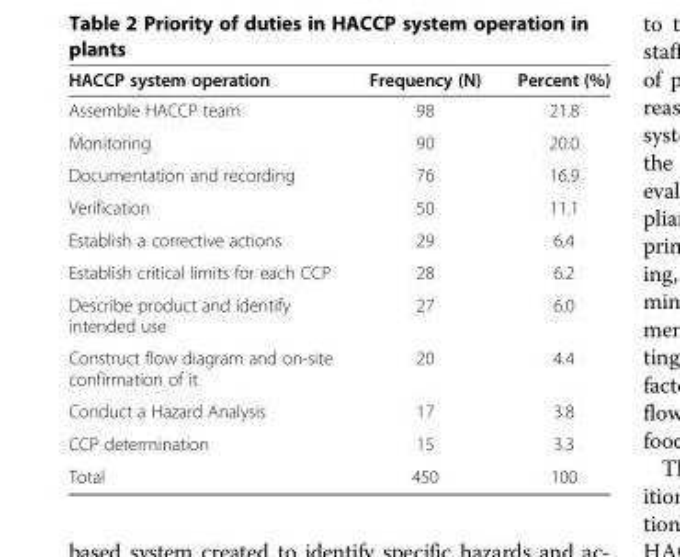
<table><thead><tr><td>HACCP system operation</td><td>Frequency (N)</td><td>Percent (%)</td></tr></thead><tbody><tr><td>Assemble HACCP team</td><td>98</td><td>21.8</td></tr><tr><td>Monitoring</td><td>90</td><td>20.0</td></tr><tr><td>Documentation and recording</td><td>76</td><td>16.9</td></tr><tr><td>Verification</td><td>50</td><td>11.1</td></tr><tr><td>Establish a corrective actions</td><td>29</td><td>6.4</td></tr><tr><td>Establish critical limits for each CCP</td><td>28</td><td>6.2</td></tr><tr><td>Describe product and identify intended use</td><td>27</td><td>6.0</td></tr><tr><td>Construct flow diagram and on-site confirmation of it</td><td>20</td><td>4.4</td></tr><tr><td>Conduct a Hazard Analysis</td><td>17</td><td>3.8</td></tr><tr><td>CCP determination</td><td>15</td><td>3.3</td></tr><tr><td>Total</td><td>450</td><td>100</td></tr></tbody></table>